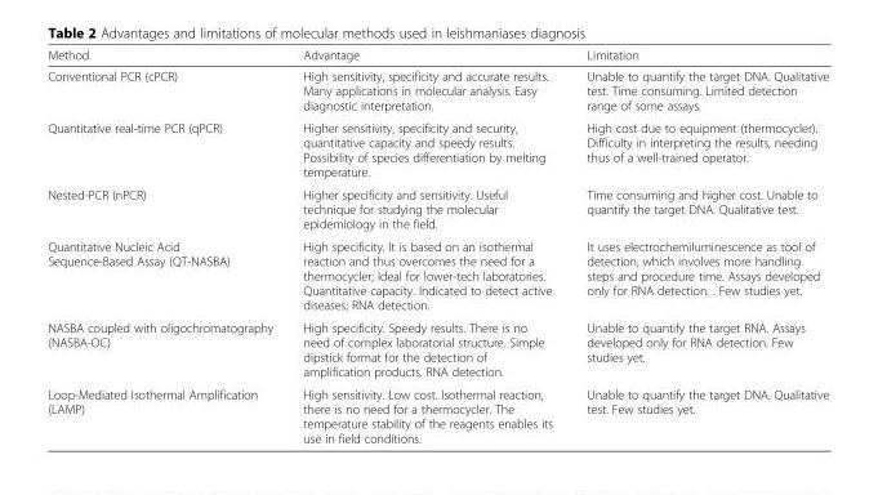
<table><thead><tr><td>Method</td><td>Advantage</td><td>Limitation</td></tr></thead><tbody><tr><td>Conventional PCR (cPCR)</td><td>High sensitivity, specificity and accurate results. Many applications in molecular analysis. Easy diagnostic interpretation.</td><td>Unable to quantify the target DNA. Qualitative test. Time consuming. Limited detection range of some assays.</td></tr><tr><td>Quantitative real-time PCR (qPCR)</td><td>Higher sensitivity, specificity and security, quantitative capacity and speedy results. Possibility of species differentiation by melting temperature.</td><td>High cost due to equipment (thermocycler). Difficulty in interpreting the results, needing thus of a well-trained operator.</td></tr><tr><td>Nested-PCR (nPCR)</td><td>Higher specificity and sensitivity. Useful technique for studying the molecular epidemiology in the field.</td><td>Time consuming and higher cost. Unable to quantify the target DNA. Qualitative test.</td></tr><tr><td>Quantitative Nucleic Acid Sequence-Based Assay (QT-NASBA)</td><td>High specificity. It is based on an isothermal reaction and thus overcomes the need for a thermocycler; Ideal for lower-tech laboratories. Quantitative capacity. Indicated to detect active diseases; RNA detection.</td><td>It uses electrochemiluminescence as tool of detection, which involves more handling steps and procedure time. Assays developed only for RNA detection. . Few studies yet.</td></tr><tr><td>NASBA coupled with oligochromatography (NASBA-OC)</td><td>High specificity. Speedy results. There is no need of complex laboratorial structure. Simple dipstick format for the detection of amplification products. RNA detection.</td><td>Unable to quantify the target RNA. Assays developed only for RNA detection. Few studies yet.</td></tr><tr><td>Loop-Mediated Isothermal Amplification (LAMP)</td><td>High sensitivity. Low cost. Isothermal reaction, there is no need for a thermocycler. The temperature stability of the reagents enables its use in field conditions.</td><td>Unable to quantify the target DNA. Qualitative test. Few studies yet.</td></tr></tbody></table>